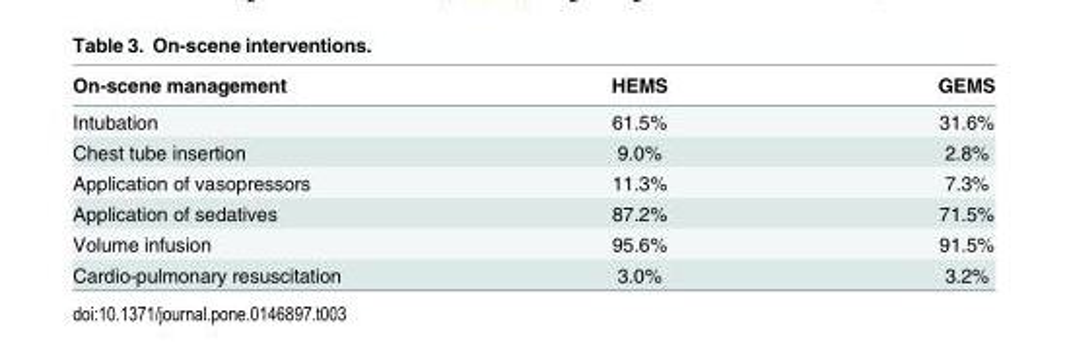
<table><thead><tr><td>On-scene management</td><td>HEMS</td><td>GEMS</td></tr></thead><tbody><tr><td>Intubation</td><td>61.5%</td><td>31.6%</td></tr><tr><td>Chest tube insertion</td><td>9.0%</td><td>2.8%</td></tr><tr><td>Application of vasopressors</td><td>11.3%</td><td>7.3%</td></tr><tr><td>Application of sedatives</td><td>87.2%</td><td>71.5%</td></tr><tr><td>Volume infusion</td><td>95.6%</td><td>91.5%</td></tr><tr><td>Cardio-pulmonary resuscitation</td><td>3.0%</td><td>3.2%</td></tr></tbody></table>